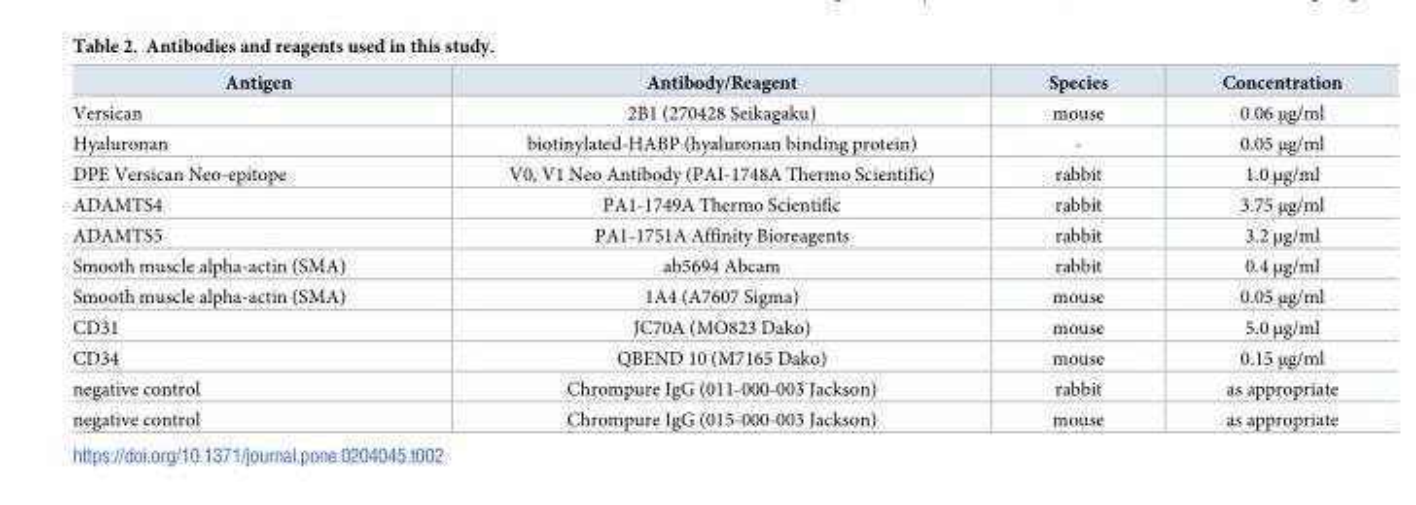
<table><thead><tr><td>Antigen</td><td>Antibody/Reagent</td><td>Species</td><td>Concentration</td></tr></thead><tbody><tr><td>Versican</td><td>2B1 (270428 Seikagaku)</td><td>mouse</td><td>0.06 μg/ml</td></tr><tr><td>Hyaluronan</td><td>biotinylated-HABP (hyaluronan binding protein)</td><td>-</td><td>0.05 μg/ml</td></tr><tr><td>DPE Versican Neo-epitope</td><td>V0, V1 Neo Antibody (PAI-1748A Thermo Scientific)</td><td>rabbit</td><td>1.0 μg/ml</td></tr><tr><td>ADAMTS4</td><td>PA1-1749A Thermo Scientific</td><td>rabbit</td><td>3.75 μg/ml</td></tr><tr><td>ADAMTS5</td><td>PA1-1751A Affinity Bioreagents</td><td>rabbit</td><td>3.2 μg/ml</td></tr><tr><td>Smooth muscle alpha-actin (SMA)</td><td>ab5694 Abcam</td><td>rabbit</td><td>0.4 μg/ml</td></tr><tr><td>Smooth muscle alpha-actin (SMA)</td><td>1A4 (A7607 Sigma)</td><td>mouse</td><td>0.05 μg/ml</td></tr><tr><td>CD31</td><td>JC70A (MO823 Dako)</td><td>mouse</td><td>5.0 μg/ml</td></tr><tr><td>CD34</td><td>QBEND 10 (M7165 Dako)</td><td>mouse</td><td>0.15 μg/ml</td></tr><tr><td>negative control</td><td>Chrompure IgG (011-000-003 Jackson)</td><td>rabbit</td><td>as appropriate</td></tr><tr><td>negative control</td><td>Chrompure IgG (015-000-003 Jackson)</td><td>mouse</td><td>as appropriate</td></tr></tbody></table>